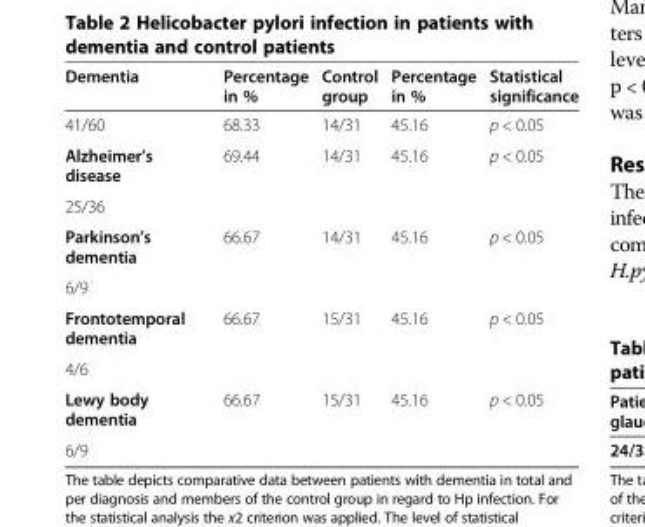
<table><thead><tr><td>Dementia</td><td>Percentage in %</td><td>Control group</td><td>Percentage in %</td><td>Statistical significance</td></tr></thead><tbody><tr><td>41/60</td><td>68.33</td><td>14/31</td><td>45.16</td><td>p &lt; 0.05</td></tr><tr><td>Alzheimer’s disease</td><td rowspan="2">69.44</td><td rowspan="2">14/31</td><td rowspan="2">45.16</td><td rowspan="2">p &lt; 0.05</td></tr><tr><td>25/36</td></tr><tr><td>Parkinson’s dementia</td><td rowspan="2">66.67</td><td rowspan="2">14/31</td><td rowspan="2">45.16</td><td rowspan="2">p &lt; 0.05</td></tr><tr><td>6/9</td></tr><tr><td>Frontotemporal dementia</td><td rowspan="2">66.67</td><td rowspan="2">15/31</td><td rowspan="2">45.16</td><td rowspan="2">p &lt; 0.05</td></tr><tr><td>4/6</td></tr><tr><td>Lewy body dementia</td><td rowspan="2">66.67</td><td rowspan="2">15/31</td><td rowspan="2">45.16</td><td rowspan="2">p &lt; 0.05</td></tr><tr><td>6/9</td></tr></tbody></table>